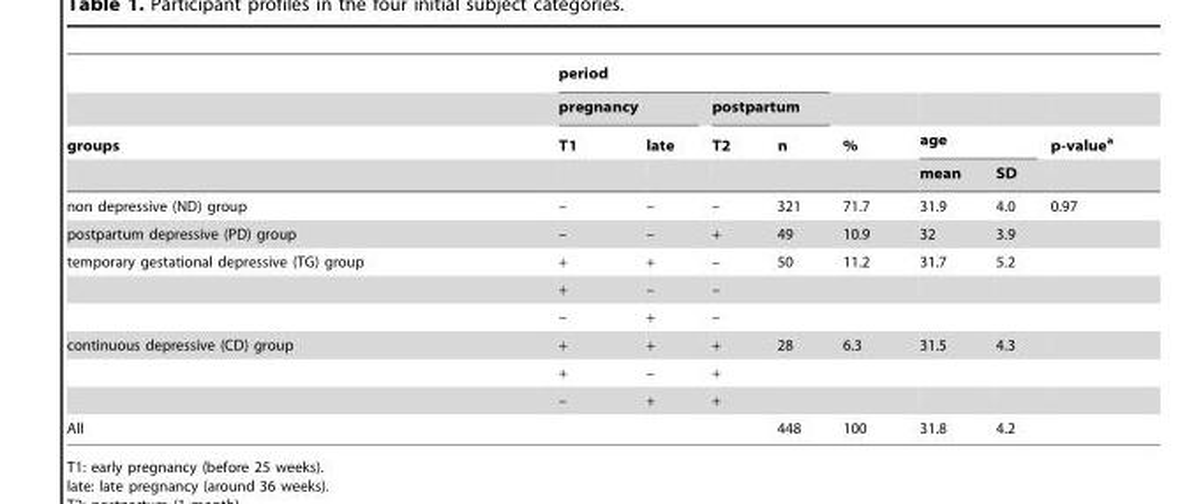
<table><thead><tr><td rowspan="4">groups</td><td colspan="4">period</td><td rowspan="4">%</td><td rowspan="2"></td><td rowspan="2"></td><td rowspan="4">p-value<sup>a</sup></td></tr><tr><td colspan="2">pregnancy</td><td colspan="2">postpartum</td></tr><tr><td rowspan="2">T1</td><td rowspan="2">late</td><td rowspan="2">T2</td><td rowspan="2">n</td><td colspan="2">age</td></tr><tr><td>mean</td><td>SD</td></tr></thead><tbody><tr><td>non depressive (ND) group</td><td>–</td><td>–</td><td>–</td><td>321</td><td>71.7</td><td>31.9</td><td>4.0</td><td>0.97</td></tr><tr><td>postpartum depressive (PD) group</td><td>–</td><td>–</td><td>+</td><td>49</td><td>10.9</td><td>32</td><td>3.9</td><td></td></tr><tr><td rowspan="3">temporary gestational depressive (TG) group</td><td>+</td><td>+</td><td>–</td><td>50</td><td>11.2</td><td>31.7</td><td>5.2</td><td></td></tr><tr><td>+</td><td>–</td><td>–</td><td></td><td></td><td></td><td></td><td></td></tr><tr><td>–</td><td>+</td><td>–</td><td></td><td></td><td></td><td></td><td></td></tr><tr><td rowspan="3">continuous depressive (CD) group</td><td>+</td><td>+</td><td>+</td><td>28</td><td>6.3</td><td>31.5</td><td>4.3</td><td></td></tr><tr><td>+</td><td>–</td><td>+</td><td></td><td></td><td></td><td></td><td></td></tr><tr><td>–</td><td>+</td><td>+</td><td></td><td></td><td></td><td></td><td></td></tr><tr><td>All</td><td></td><td></td><td></td><td>448</td><td>100</td><td>31.8</td><td>4.2</td><td></td></tr></tbody></table>